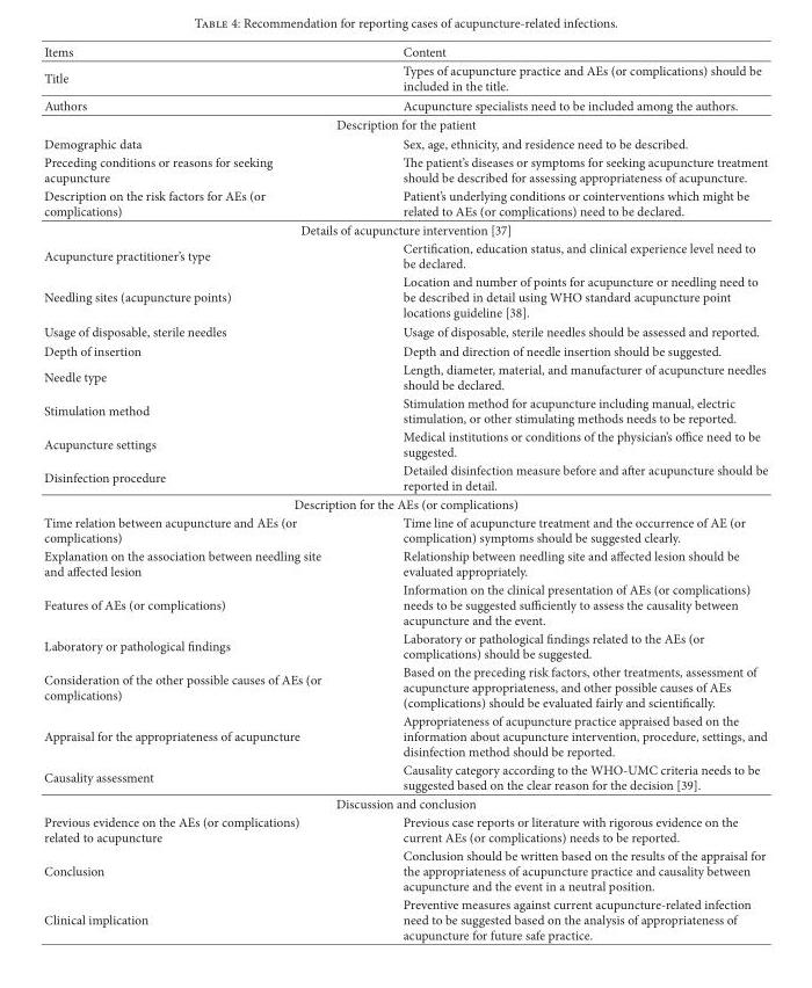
<table><thead><tr><td>Items</td><td>Content</td></tr></thead><tbody><tr><td>Title</td><td>Types of acupuncture practice and AEs (or complications) should be included in the title.</td></tr><tr><td>Authors</td><td>Acupuncture specialists need to be included among the authors.</td></tr><tr><td colspan="2">Description for the patient</td></tr><tr><td>Demographic data</td><td>Sex, age, ethnicity, and residence need to be described.</td></tr><tr><td>Preceding conditions or reasons for seeking acupuncture</td><td>The patient’s diseases or symptoms for seeking acupuncture treatment should be described for assessing appropriateness of acupuncture.</td></tr><tr><td>Description on the risk factors for AEs (or complications)</td><td>Patient’s underlying conditions or cointerventions which might be related to AEs (or complications) need to be declared.</td></tr><tr><td colspan="2">Details of acupuncture intervention [37]</td></tr><tr><td>Acupuncture practitioner’s type</td><td>Certification, education status, and clinical experience level need to be declared.</td></tr><tr><td>Needling sites (acupuncture points)</td><td>Location and number of points for acupuncture or needling need to be described in detail using WHO standard acupuncture point locations guideline [38].</td></tr><tr><td>Usage of disposable, sterile needles</td><td>Usage of disposable, sterile needles should be assessed and reported.</td></tr><tr><td>Depth of insertion</td><td>Depth and direction of needle insertion should be suggested.</td></tr><tr><td>Needle type</td><td>Length, diameter, material, and manufacturer of acupuncture needles should be declared.</td></tr><tr><td>Stimulation method</td><td>Stimulation method for acupuncture including manual, electric stimulation, or other stimulating methods needs to be reported.</td></tr><tr><td>Acupuncture settings</td><td>Medical institutions or conditions of the physician’s office need to be suggested.</td></tr><tr><td>Disinfection procedure</td><td>Detailed disinfection measure before and after acupuncture should be reported in detail.</td></tr><tr><td colspan="2">Description for the AEs (or complications)</td></tr><tr><td>Time relation between acupuncture and AEs (or complications)</td><td>Time line of acupuncture treatment and the occurrence of AE (or complication) symptoms should be suggested clearly.</td></tr><tr><td>Explanation on the association between needling site and affected lesion</td><td>Relationship between needling site and affected lesion should be evaluated appropriately.</td></tr><tr><td>Features of AEs (or complications)</td><td>Information on the clinical presentation of AEs (or complications) needs to be suggested sufficiently to assess the causality between acupuncture and the event.</td></tr><tr><td>Laboratory or pathological findings</td><td>Laboratory or pathological findings related to the AEs (or complications) should be suggested.</td></tr><tr><td>Consideration of the other possible causes of AEs (or complications)</td><td>Based on the preceding risk factors, other treatments, assessment of acupuncture appropriateness, and other possible causes of AEs (complications) should be evaluated fairly and scientifically.</td></tr><tr><td>Appraisal for the appropriateness of acupuncture</td><td>Appropriateness of acupuncture practice appraised based on the information about acupuncture intervention, procedure, settings, and disinfection method should be reported.</td></tr><tr><td>Causality assessment</td><td>Causality category according to the WHO-UMC criteria needs to be suggested based on the clear reason for the decision [39].</td></tr><tr><td colspan="2">Discussion and conclusion</td></tr><tr><td>Previous evidence on the AEs (or complications) related to acupuncture</td><td>Previous case reports or literature with rigorous evidence on the current AEs (or complications) needs to be reported.</td></tr><tr><td>Conclusion</td><td>Conclusion should be written based on the results of the appraisal for the appropriateness of acupuncture practice and causality between acupuncture and the event in a neutral position.</td></tr><tr><td>Clinical implication</td><td>Preventive measures against current acupuncture-related infection need to be suggested based on the analysis of appropriateness of acupuncture for future safe practice.</td></tr></tbody></table>